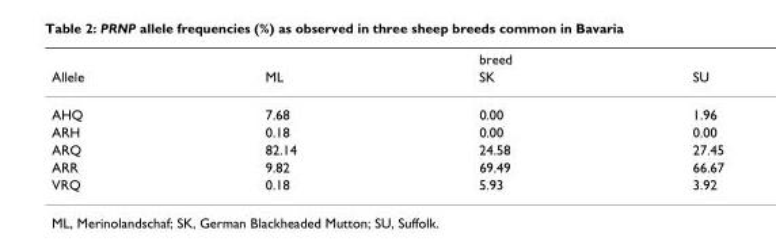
<table><thead><tr><td rowspan="2">Allele</td><td rowspan="2">ML</td><td rowspan="2">breed SK</td><td rowspan="2">SU</td></tr><tr></tr></thead><tbody><tr><td>AHQ</td><td>7.68</td><td>0.00</td><td>1.96</td></tr><tr><td>ARH</td><td>0.18</td><td>0.00</td><td>0.00</td></tr><tr><td>ARQ</td><td>82.14</td><td>24.58</td><td>27.45</td></tr><tr><td>ARR</td><td>9.82</td><td>69.49</td><td>66.67</td></tr><tr><td>VRQ</td><td>0.18</td><td>5.93</td><td>3.92</td></tr></tbody></table>